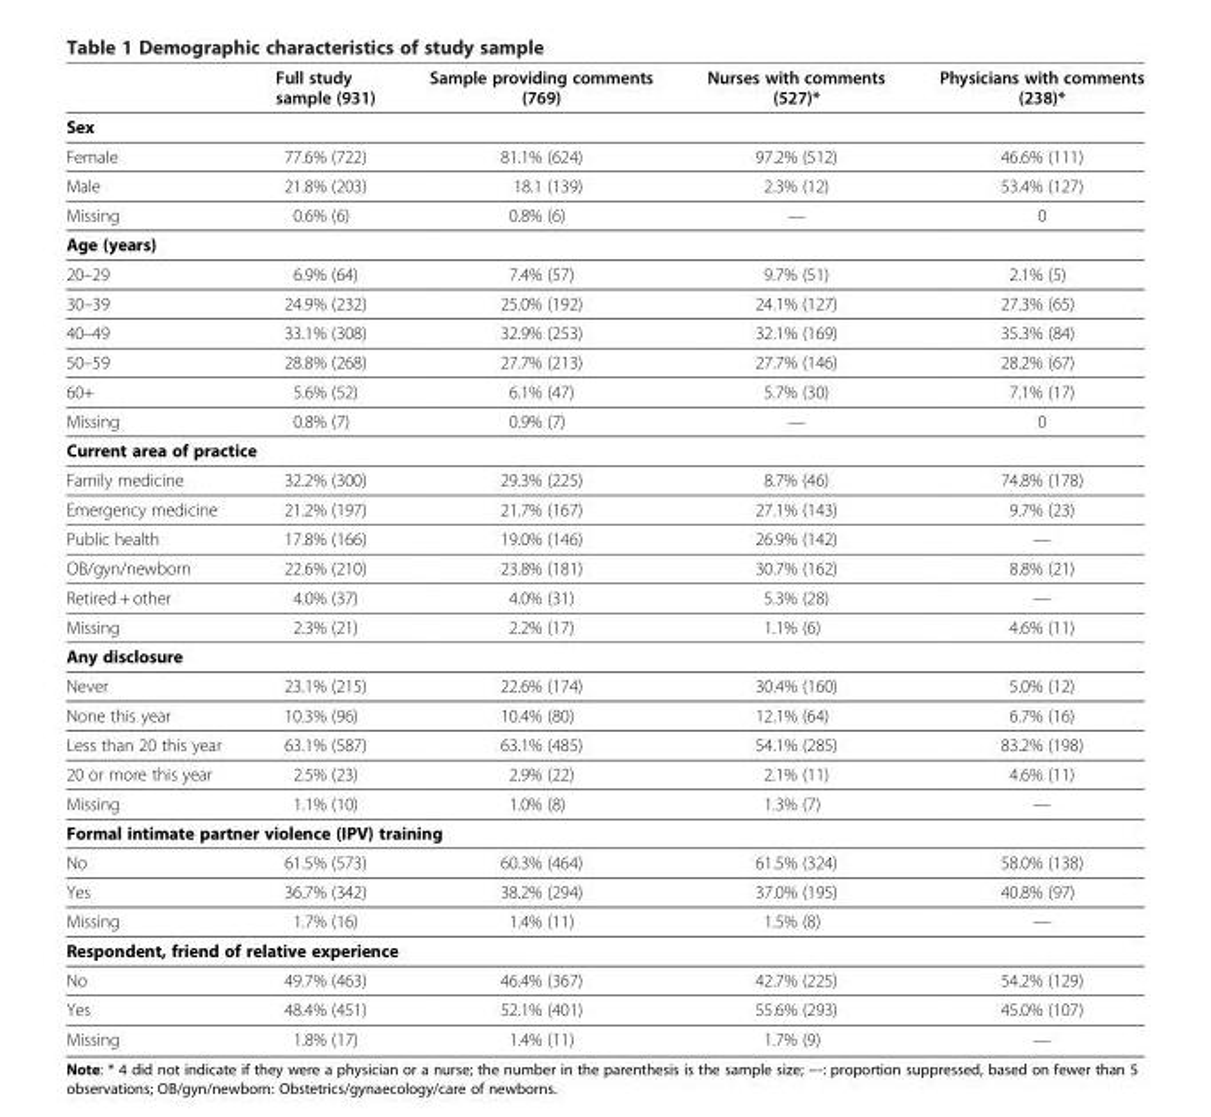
<table><thead><tr><td></td><td>Full study sample (931)</td><td>Sample providing comments (769)</td><td>Nurses with comments (527)*</td><td>Physicians with comments (238)*</td></tr></thead><tbody><tr><td colspan="5">Sex</td></tr><tr><td>Female</td><td>77.6% (722)</td><td>81.1% (624)</td><td>97.2% (512)</td><td>46.6% (111)</td></tr><tr><td>Male</td><td>21.8% (203)</td><td>18.1 (139)</td><td>2.3% (12)</td><td>53.4% (127)</td></tr><tr><td>Missing</td><td>0.6% (6)</td><td>0.8% (6)</td><td>—</td><td>0</td></tr><tr><td colspan="5">Age (years)</td></tr><tr><td>20–29</td><td>6.9% (64)</td><td>7.4% (57)</td><td>9.7% (51)</td><td>2.1% (5)</td></tr><tr><td>30–39</td><td>24.9% (232)</td><td>25.0% (192)</td><td>24.1% (127)</td><td>27.3% (65)</td></tr><tr><td>40–49</td><td>33.1% (308)</td><td>32.9% (253)</td><td>32.1% (169)</td><td>35.3% (84)</td></tr><tr><td>50–59</td><td>28.8% (268)</td><td>27.7% (213)</td><td>27.7% (146)</td><td>28.2% (67)</td></tr><tr><td>60+</td><td>5.6% (52)</td><td>6.1% (47)</td><td>5.7% (30)</td><td>7.1% (17)</td></tr><tr><td>Missing</td><td>0.8% (7)</td><td>0.9% (7)</td><td>—</td><td>0</td></tr><tr><td colspan="5">Current area of practice</td></tr><tr><td>Family medicine</td><td>32.2% (300)</td><td>29.3% (225)</td><td>8.7% (46)</td><td>74.8% (178)</td></tr><tr><td>Emergency medicine</td><td>21.2% (197)</td><td>21.7% (167)</td><td>27.1% (143)</td><td>9.7% (23)</td></tr><tr><td>Public health</td><td>17.8% (166)</td><td>19.0% (146)</td><td>26.9% (142)</td><td>—</td></tr><tr><td>OB/gyn/newborn</td><td>22.6% (210)</td><td>23.8% (181)</td><td>30.7% (162)</td><td>8.8% (21)</td></tr><tr><td>Retired + other</td><td>4.0% (37)</td><td>4.0% (31)</td><td>5.3% (28)</td><td>—</td></tr><tr><td>Missing</td><td>2.3% (21)</td><td>2.2% (17)</td><td>1.1% (6)</td><td>4.6% (11)</td></tr><tr><td colspan="5">Any disclosure</td></tr><tr><td>Never</td><td>23.1% (215)</td><td>22.6% (174)</td><td>30.4% (160)</td><td>5.0% (12)</td></tr><tr><td>None this year</td><td>10.3% (96)</td><td>10.4% (80)</td><td>12.1% (64)</td><td>6.7% (16)</td></tr><tr><td>Less than 20 this year</td><td>63.1% (587)</td><td>63.1% (485)</td><td>54.1% (285)</td><td>83.2% (198)</td></tr><tr><td>20 or more this year</td><td>2.5% (23)</td><td>2.9% (22)</td><td>2.1% (11)</td><td>4.6% (11)</td></tr><tr><td>Missing</td><td>1.1% (10)</td><td>1.0% (8)</td><td>1.3% (7)</td><td>—</td></tr><tr><td colspan="5">Formal intimate partner violence (IPV) training</td></tr><tr><td>No</td><td>61.5% (573)</td><td>60.3% (464)</td><td>61.5% (324)</td><td>58.0% (138)</td></tr><tr><td>Yes</td><td>36.7% (342)</td><td>38.2% (294)</td><td>37.0% (195)</td><td>40.8% (97)</td></tr><tr><td>Missing</td><td>1.7% (16)</td><td>1.4% (11)</td><td>1.5% (8)</td><td>—</td></tr><tr><td colspan="5">Respondent, friend of relative experience</td></tr><tr><td>No</td><td>49.7% (463)</td><td>46.4% (367)</td><td>42.7% (225)</td><td>54.2% (129)</td></tr><tr><td>Yes</td><td>48.4% (451)</td><td>52.1% (401)</td><td>55.6% (293)</td><td>45.0% (107)</td></tr><tr><td>Missing</td><td>1.8% (17)</td><td>1.4% (11)</td><td>1.7% (9)</td><td>—</td></tr></tbody></table>